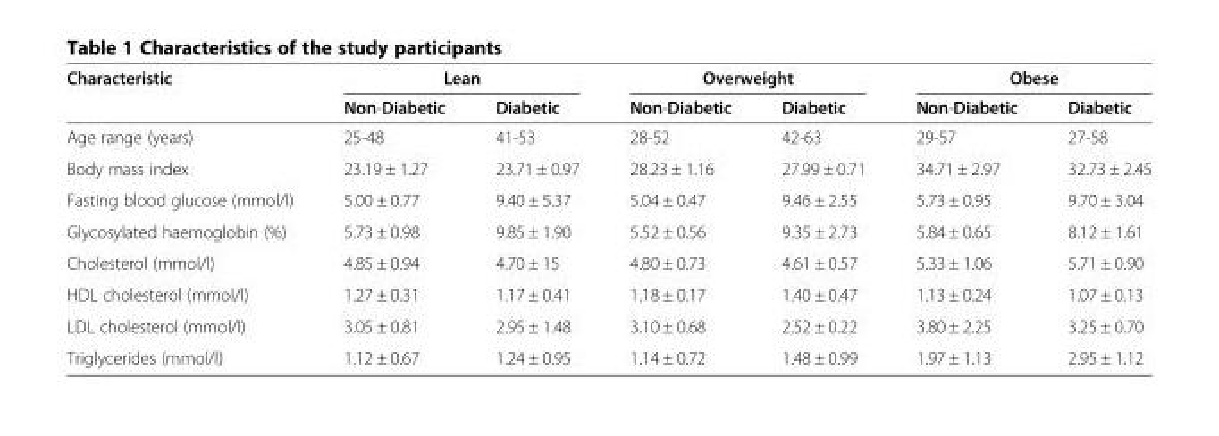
<table><thead><tr><td rowspan="2">Characteristic</td><td colspan="2">Lean</td><td colspan="2">Overweight</td><td colspan="2">Obese</td></tr><tr><td>Non-Diabetic</td><td>Diabetic</td><td>Non-Diabetic</td><td>Diabetic</td><td>Non-Diabetic</td><td>Diabetic</td></tr></thead><tbody><tr><td>Age range (years)</td><td>25-48</td><td>41-53</td><td>28-52</td><td>42-63</td><td>29-57</td><td>27-58</td></tr><tr><td>Body mass index</td><td>23.19 ± 1.27</td><td>23.71 ± 0.97</td><td>28.23 ± 1.16</td><td>27.99 ± 0.71</td><td>34.71 ± 2.97</td><td>32.73 ± 2.45</td></tr><tr><td>Fasting blood glucose (mmol/l)</td><td>5.00 ± 0.77</td><td>9.40 ± 5.37</td><td>5.04 ± 0.47</td><td>9.46 ± 2.55</td><td>5.73 ± 0.95</td><td>9.70 ± 3.04</td></tr><tr><td>Glycosylated haemoglobin (%)</td><td>5.73 ± 0.98</td><td>9.85 ± 1.90</td><td>5.52 ± 0.56</td><td>9.35 ± 2.73</td><td>5.84 ± 0.65</td><td>8.12 ± 1.61</td></tr><tr><td>Cholesterol (mmol/l)</td><td>4.85 ± 0.94</td><td>4.70 ± 15</td><td>4.80 ± 0.73</td><td>4.61 ± 0.57</td><td>5.33 ± 1.06</td><td>5.71 ± 0.90</td></tr><tr><td>HDL cholesterol (mmol/l)</td><td>1.27 ± 0.31</td><td>1.17 ± 0.41</td><td>1.18 ± 0.17</td><td>1.40 ± 0.47</td><td>1.13 ± 0.24</td><td>1.07 ± 0.13</td></tr><tr><td>LDL cholesterol (mmol/l)</td><td>3.05 ± 0.81</td><td>2.95 ± 1.48</td><td>3.10 ± 0.68</td><td>2.52 ± 0.22</td><td>3.80 ± 2.25</td><td>3.25 ± 0.70</td></tr><tr><td>Triglycerides (mmol/l)</td><td>1.12 ± 0.67</td><td>1.24 ± 0.95</td><td>1.14 ± 0.72</td><td>1.48 ± 0.99</td><td>1.97 ± 1.13</td><td>2.95 ± 1.12</td></tr></tbody></table>